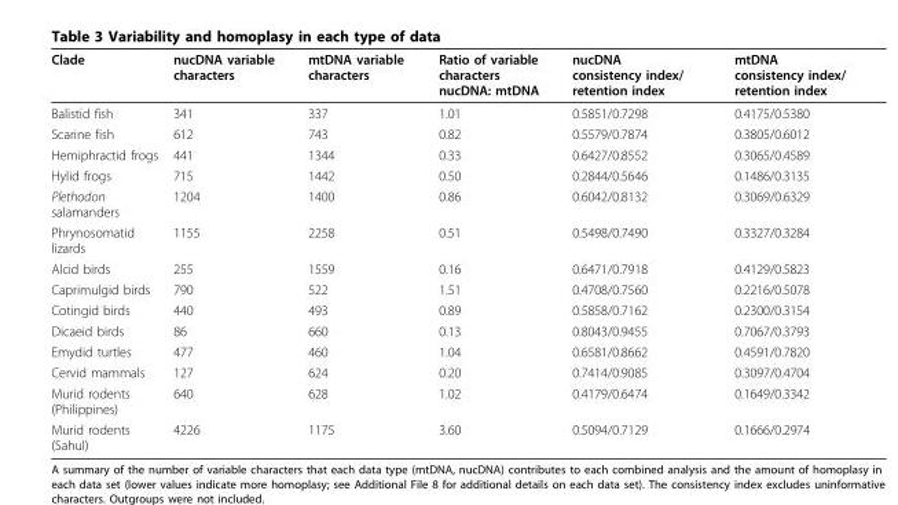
<table><thead><tr><td>Clade</td><td>nucDNA variable characters</td><td>mtDNA variable characters</td><td>Ratio of variable characters nucDNA: mtDNA</td><td>nucDNA consistency index/ retention index</td><td>mtDNA consistency index/ retention index</td></tr></thead><tbody><tr><td>Balistid fish</td><td>341</td><td>337</td><td>1.01</td><td>0.5851/0.7298</td><td>0.4175/0.5380</td></tr><tr><td>Scarine fish</td><td>612</td><td>743</td><td>0.82</td><td>0.5579/0.7874</td><td>0.3805/0.6012</td></tr><tr><td>Hemiphractid frogs</td><td>441</td><td>1344</td><td>0.33</td><td>0.6427/0.8552</td><td>0.3065/0.4589</td></tr><tr><td>Hylid frogs</td><td>715</td><td>1442</td><td>0.50</td><td>0.2844/0.5646</td><td>0.1486/0.3135</td></tr><tr><td>Plethodon salamanders</td><td>1204</td><td>1400</td><td>0.86</td><td>0.6042/0.8132</td><td>0.3069/0.6329</td></tr><tr><td>Phrynosomatid lizards</td><td>1155</td><td>2258</td><td>0.51</td><td>0.5498/0.7490</td><td>0.3327/0.3284</td></tr><tr><td>Alcid birds</td><td>255</td><td>1559</td><td>0.16</td><td>0.6471/0.7918</td><td>0.4129/0.5823</td></tr><tr><td>Caprimulgid birds</td><td>790</td><td>522</td><td>1.51</td><td>0.4708/0.7560</td><td>0.2216/0.5078</td></tr><tr><td>Cotingid birds</td><td>440</td><td>493</td><td>0.89</td><td>0.5858/0.7162</td><td>0.2300/0.3154</td></tr><tr><td>Dicaeid birds</td><td>86</td><td>660</td><td>0.13</td><td>0.8043/0.9455</td><td>0.7067/0.3793</td></tr><tr><td>Emydid turtles</td><td>477</td><td>460</td><td>1.04</td><td>0.6581/0.8662</td><td>0.4591/0.7820</td></tr><tr><td>Cervid mammals</td><td>127</td><td>624</td><td>0.20</td><td>0.7414/0.9085</td><td>0.3097/0.4704</td></tr><tr><td>Murid rodents (Philippines)</td><td>640</td><td>628</td><td>1.02</td><td>0.4179/0.6474</td><td>0.1649/0.3342</td></tr><tr><td>Murid rodents (Sahul)</td><td>4226</td><td>1175</td><td>3.60</td><td>0.5094/0.7129</td><td>0.1666/0.2974</td></tr></tbody></table>